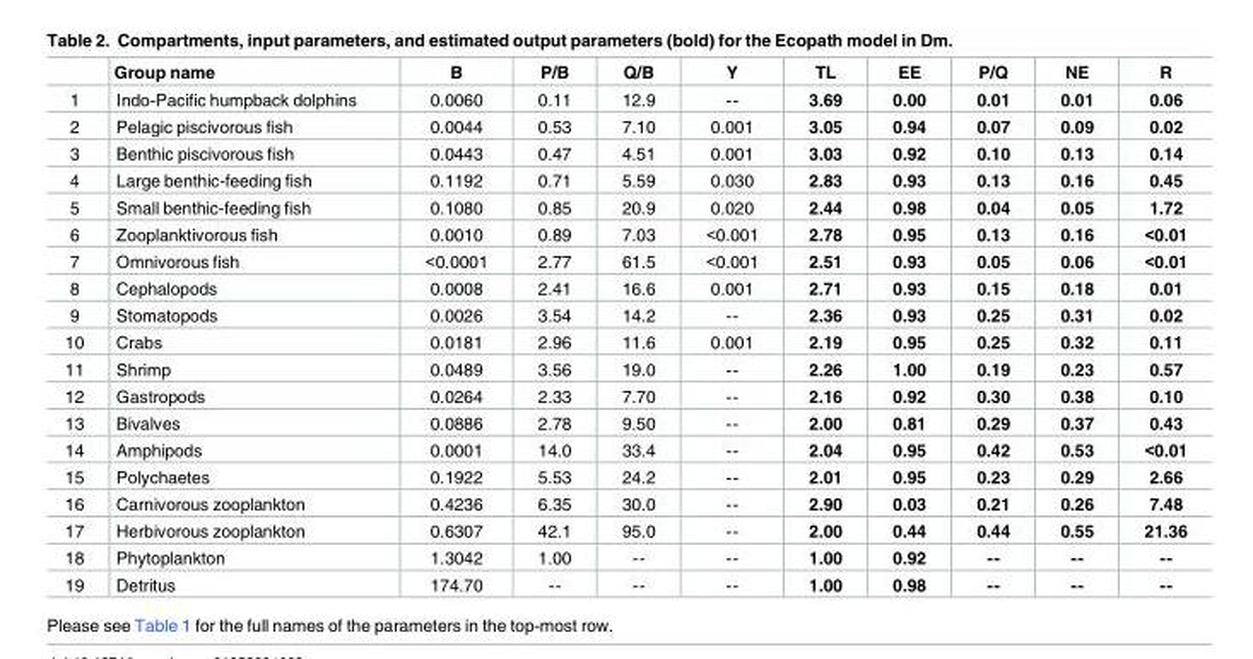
<table><thead><tr><td></td><td>Group name</td><td>B</td><td>P/B</td><td>Q/B</td><td>Y</td><td>TL</td><td>EE</td><td>P/Q</td><td>NE</td><td>R</td></tr></thead><tbody><tr><td>1</td><td>Indo-Pacific humpback dolphins</td><td>0.0060</td><td>0.11</td><td>12.9</td><td>--</td><td>3.69</td><td>0.00</td><td>0.01</td><td>0.01</td><td>0.06</td></tr><tr><td>2</td><td>Pelagic piscivorous fish</td><td>0.0044</td><td>0.53</td><td>7.10</td><td>0.001</td><td>3.05</td><td>0.94</td><td>0.07</td><td>0.09</td><td>0.02</td></tr><tr><td>3</td><td>Benthic piscivorous fish</td><td>0.0443</td><td>0.47</td><td>4.51</td><td>0.001</td><td>3.03</td><td>0.92</td><td>0.10</td><td>0.13</td><td>0.14</td></tr><tr><td>4</td><td>Large benthic-feeding fish</td><td>0.1192</td><td>0.71</td><td>5.59</td><td>0.030</td><td>2.83</td><td>0.93</td><td>0.13</td><td>0.16</td><td>0.45</td></tr><tr><td>5</td><td>Small benthic-feeding fish</td><td>0.1080</td><td>0.85</td><td>20.9</td><td>0.020</td><td>2.44</td><td>0.98</td><td>0.04</td><td>0.05</td><td>1.72</td></tr><tr><td>6</td><td>Zooplanktivorous fish</td><td>0.0010</td><td>0.89</td><td>7.03</td><td>&lt;0.001</td><td>2.78</td><td>0.95</td><td>0.13</td><td>0.16</td><td>&lt;0.01</td></tr><tr><td>7</td><td>Omnivorous fish</td><td>&lt;0.0001</td><td>2.77</td><td>61.5</td><td>&lt;0.001</td><td>2.51</td><td>0.93</td><td>0.05</td><td>0.06</td><td>&lt;0.01</td></tr><tr><td>8</td><td>Cephalopods</td><td>0.0008</td><td>2.41</td><td>16.6</td><td>0.001</td><td>2.71</td><td>0.93</td><td>0.15</td><td>0.18</td><td>0.01</td></tr><tr><td>9</td><td>Stomatopods</td><td>0.0026</td><td>3.54</td><td>14.2</td><td>--</td><td>2.36</td><td>0.93</td><td>0.25</td><td>0.31</td><td>0.02</td></tr><tr><td>10</td><td>Crabs</td><td>0.0181</td><td>2.96</td><td>11.6</td><td>0.001</td><td>2.19</td><td>0.95</td><td>0.25</td><td>0.32</td><td>0.11</td></tr><tr><td>11</td><td>Shrimp</td><td>0.0489</td><td>3.56</td><td>19.0</td><td>--</td><td>2.26</td><td>1.00</td><td>0.19</td><td>0.23</td><td>0.57</td></tr><tr><td>12</td><td>Gastropods</td><td>0.0264</td><td>2.33</td><td>7.70</td><td>--</td><td>2.16</td><td>0.92</td><td>0.30</td><td>0.38</td><td>0.10</td></tr><tr><td>13</td><td>Bivalves</td><td>0.0886</td><td>2.78</td><td>9.50</td><td>--</td><td>2.00</td><td>0.81</td><td>0.29</td><td>0.37</td><td>0.43</td></tr><tr><td>14</td><td>Amphipods</td><td>0.0001</td><td>14.0</td><td>33.4</td><td>--</td><td>2.04</td><td>0.95</td><td>0.42</td><td>0.53</td><td>&lt;0.01</td></tr><tr><td>15</td><td>Polychaetes</td><td>0.1922</td><td>5.53</td><td>24.2</td><td>--</td><td>2.01</td><td>0.95</td><td>0.23</td><td>0.29</td><td>2.66</td></tr><tr><td>16</td><td>Carnivorous zooplankton</td><td>0.4236</td><td>6.35</td><td>30.0</td><td>--</td><td>2.90</td><td>0.03</td><td>0.21</td><td>0.26</td><td>7.48</td></tr><tr><td>17</td><td>Herbivorous zooplankton</td><td>0.6307</td><td>42.1</td><td>95.0</td><td>--</td><td>2.00</td><td>0.44</td><td>0.44</td><td>0.55</td><td>21.36</td></tr><tr><td>18</td><td>Phytoplankton</td><td>1.3042</td><td>1.00</td><td>--</td><td>--</td><td>1.00</td><td>0.92</td><td>--</td><td>--</td><td>--</td></tr><tr><td>19</td><td>Detritus</td><td>174.70</td><td>--</td><td>--</td><td>--</td><td>1.00</td><td>0.98</td><td>--</td><td>--</td><td>--</td></tr></tbody></table>